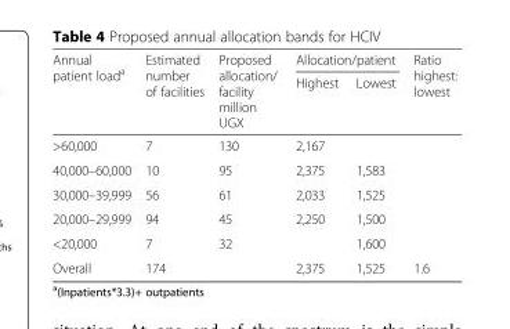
<table><thead><tr><td rowspan="2">Annual patient load<sup>a</sup></td><td rowspan="2">Estimated number of facilities</td><td rowspan="2">Proposed allocation/ facility million UGX</td><td colspan="2">Allocation/patient</td><td rowspan="2">Ratio highest: lowest</td></tr><tr><td>Highest</td><td>Lowest</td></tr></thead><tbody><tr><td>&gt;60,000</td><td>7</td><td>130</td><td>2,167</td><td></td><td></td></tr><tr><td>40,000–60,000</td><td>10</td><td>95</td><td>2,375</td><td>1,583</td><td></td></tr><tr><td>30,000–39,999</td><td>56</td><td>61</td><td>2,033</td><td>1,525</td><td></td></tr><tr><td>20,000–29,999</td><td>94</td><td>45</td><td>2,250</td><td>1,500</td><td></td></tr><tr><td>&lt;20,000</td><td>7</td><td>32</td><td></td><td>1,600</td><td></td></tr><tr><td>Overall</td><td>174</td><td></td><td>2,375</td><td>1,525</td><td>1.6</td></tr></tbody></table>